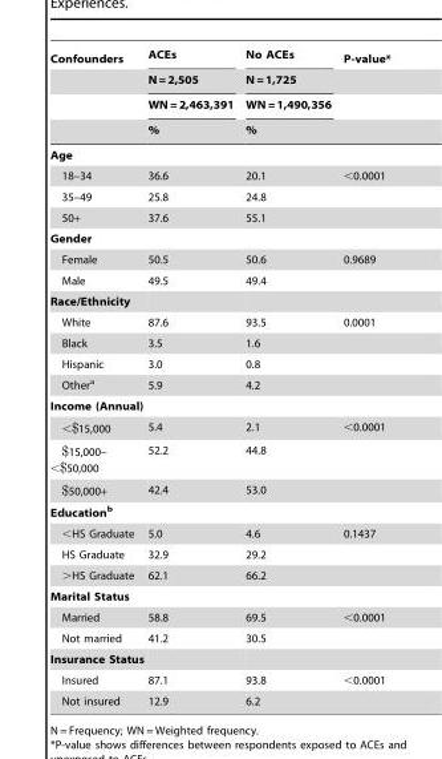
<table><thead><tr><td rowspan="4">Confounders</td><td rowspan="4">ACEs N = 2,505 WN = 2,463,391 %</td><td rowspan="4">No ACEs N = 1,725 WN = 1,490,356 %</td><td rowspan="4">P-value*</td></tr><tr></tr><tr></tr><tr></tr></thead><tbody><tr><td colspan="4">Age</td></tr><tr><td>18–34</td><td>36.6</td><td>20.1</td><td>&lt;0.0001</td></tr><tr><td>35–49</td><td>25.8</td><td>24.8</td><td></td></tr><tr><td>50+</td><td>37.6</td><td>55.1</td><td></td></tr><tr><td colspan="4">Gender</td></tr><tr><td>Female</td><td>50.5</td><td>50.6</td><td>0.9689</td></tr><tr><td>Male</td><td>49.5</td><td>49.4</td><td></td></tr><tr><td colspan="4">Race/Ethnicity</td></tr><tr><td>White</td><td>87.6</td><td>93.5</td><td>0.0001</td></tr><tr><td>Black</td><td>3.5</td><td>1.6</td><td></td></tr><tr><td>Hispanic</td><td>3.0</td><td>0.8</td><td></td></tr><tr><td>Other<sup>a</sup></td><td>5.9</td><td>4.2</td><td></td></tr><tr><td colspan="4">Income (Annual)</td></tr><tr><td>&lt;$15,000</td><td>5.4</td><td>2.1</td><td>&lt;0.0001</td></tr><tr><td>$15,000– &lt;$50,000</td><td>52.2</td><td>44.8</td><td></td></tr><tr><td>$50,000+</td><td>42.4</td><td>53.0</td><td></td></tr><tr><td colspan="4">Educationb</td></tr><tr><td>&lt;HS Graduate</td><td>5.0</td><td>4.6</td><td>0.1437</td></tr><tr><td>HS Graduate</td><td>32.9</td><td>29.2</td><td></td></tr><tr><td>&gt;HS Graduate</td><td>62.1</td><td>66.2</td><td></td></tr><tr><td colspan="4">Marital Status</td></tr><tr><td>Married</td><td>58.8</td><td>69.5</td><td>&lt;0.0001</td></tr><tr><td>Not married</td><td>41.2</td><td>30.5</td><td></td></tr><tr><td colspan="4">Insurance Status</td></tr><tr><td>Insured</td><td>87.1</td><td>93.8</td><td>&lt;0.0001</td></tr><tr><td>Not insured</td><td>12.9</td><td>6.2</td><td></td></tr></tbody></table>